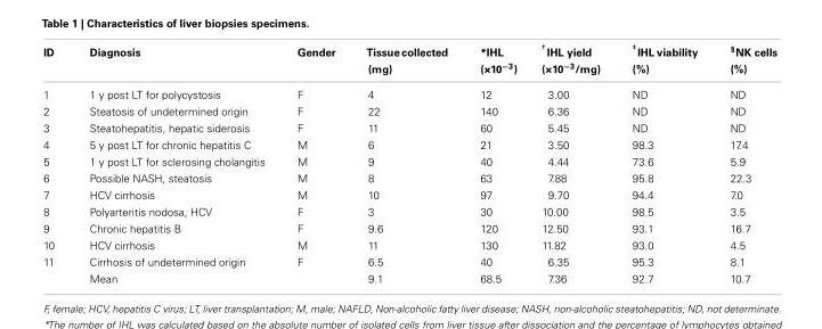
<table><thead><tr><td>ID</td><td>Diagnosis</td><td>Gender</td><td>Tissue collected (mg)</td><td>*IHL (×10<sup>−3</sup>)</td><td><sup>†</sup>IHL yield (×10<sup>−3</sup>/mg)</td><td><sup>‡</sup>IHL viability (%)</td><td><sup>§</sup>NK cells (%)</td></tr></thead><tbody><tr><td>1</td><td>1 y post LT for polycystosis</td><td>F</td><td>4</td><td>12</td><td>3.00</td><td>ND</td><td>ND</td></tr><tr><td>2</td><td>Steatosis of undetermined origin</td><td>F</td><td>22</td><td>140</td><td>6.36</td><td>ND</td><td>ND</td></tr><tr><td>3</td><td>Steatohepatitis, hepatic siderosis</td><td>F</td><td>11</td><td>60</td><td>5.45</td><td>ND</td><td>ND</td></tr><tr><td>4</td><td>5 y post LT for chronic hepatitis C</td><td>M</td><td>6</td><td>21</td><td>3.50</td><td>98.3</td><td>17.4</td></tr><tr><td>5</td><td>1 y post LT for sclerosing cholangitis</td><td>M</td><td>9</td><td>40</td><td>4.44</td><td>73.6</td><td>5.9</td></tr><tr><td>6</td><td>Possible NASH, steatosis</td><td>M</td><td>8</td><td>63</td><td>7.88</td><td>95.8</td><td>22.3</td></tr><tr><td>7</td><td>HCV cirrhosis</td><td>M</td><td>10</td><td>97</td><td>9.70</td><td>94.4</td><td>7.0</td></tr><tr><td>8</td><td>Polyarteritis nodosa, HCV</td><td>F</td><td>3</td><td>30</td><td>10.00</td><td>98.5</td><td>3.5</td></tr><tr><td>9</td><td>Chronic hepatitis B</td><td>F</td><td>9.6</td><td>120</td><td>12.50</td><td>93.1</td><td>16.7</td></tr><tr><td>10</td><td>HCV cirrhosis</td><td>M</td><td>11</td><td>130</td><td>11.82</td><td>93.0</td><td>4.5</td></tr><tr><td rowspan="2">11</td><td>Cirrhosis of undetermined origin</td><td>F</td><td>6.5</td><td>40</td><td>6.35</td><td>95.3</td><td>8.1</td></tr><tr><td>Mean</td><td></td><td>9.1</td><td>68.5</td><td>7.36</td><td>92.7</td><td>10.7</td></tr></tbody></table>